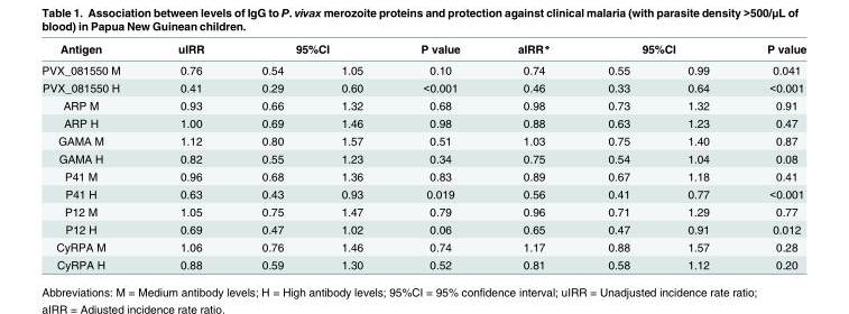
<table><thead><tr><td rowspan="2">Antigen PVX_081550 M</td><td rowspan="2">uIRR 0.76</td><td colspan="2">95%CI</td><td rowspan="2">P value 0.10</td><td rowspan="2">aIRR* 0.74</td><td colspan="2">95%CI</td><td rowspan="2">P value 0.041</td></tr><tr><td>0.54</td><td>1.05</td><td>0.55</td><td>0.99</td></tr></thead><tbody><tr><td>PVX_081550 H</td><td>0.41</td><td>0.29</td><td>0.60</td><td>&lt;0.001</td><td>0.46</td><td>0.33</td><td>0.64</td><td>&lt;0.001</td></tr><tr><td>ARP M</td><td>0.93</td><td>0.66</td><td>1.32</td><td>0.68</td><td>0.98</td><td>0.73</td><td>1.32</td><td>0.91</td></tr><tr><td>ARP H</td><td>1.00</td><td>0.69</td><td>1.46</td><td>0.98</td><td>0.88</td><td>0.63</td><td>1.23</td><td>0.47</td></tr><tr><td>GAMA M</td><td>1.12</td><td>0.80</td><td>1.57</td><td>0.51</td><td>1.03</td><td>0.75</td><td>1.40</td><td>0.87</td></tr><tr><td>GAMA H</td><td>0.82</td><td>0.55</td><td>1.23</td><td>0.34</td><td>0.75</td><td>0.54</td><td>1.04</td><td>0.08</td></tr><tr><td>P41 M</td><td>0.96</td><td>0.68</td><td>1.36</td><td>0.83</td><td>0.89</td><td>0.67</td><td>1.18</td><td>0.41</td></tr><tr><td>P41 H</td><td>0.63</td><td>0.43</td><td>0.93</td><td>0.019</td><td>0.56</td><td>0.41</td><td>0.77</td><td>&lt;0.001</td></tr><tr><td>P12 M</td><td>1.05</td><td>0.75</td><td>1.47</td><td>0.79</td><td>0.96</td><td>0.71</td><td>1.29</td><td>0.77</td></tr><tr><td>P12 H</td><td>0.69</td><td>0.47</td><td>1.02</td><td>0.06</td><td>0.65</td><td>0.47</td><td>0.91</td><td>0.012</td></tr><tr><td>CyRPA M</td><td>1.06</td><td>0.76</td><td>1.46</td><td>0.74</td><td>1.17</td><td>0.88</td><td>1.57</td><td>0.28</td></tr><tr><td>CyRPA H</td><td>0.88</td><td>0.59</td><td>1.30</td><td>0.52</td><td>0.81</td><td>0.58</td><td>1.12</td><td>0.20</td></tr></tbody></table>